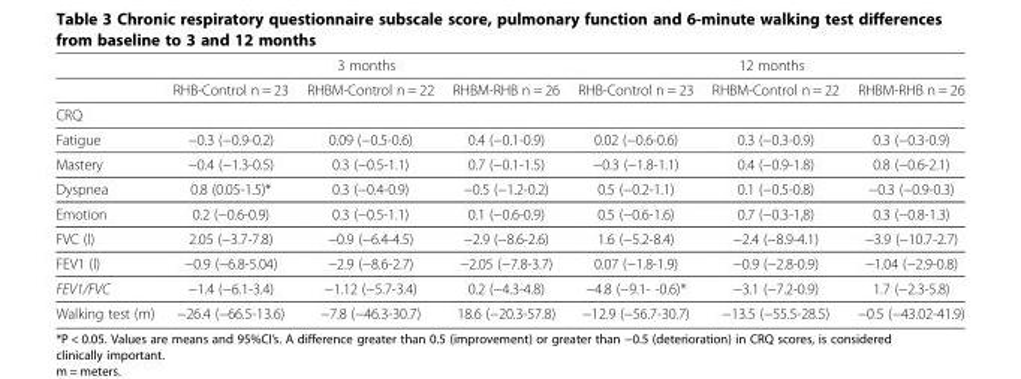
<table><thead><tr><td rowspan="2"></td><td colspan="3">3 months</td><td colspan="3">12 months</td></tr><tr><td>RHB-Control n = 23</td><td>RHBM-Control n = 22</td><td>RHBM-RHB n = 26</td><td>RHB-Control n = 23</td><td>RHBM-Control n = 22</td><td>RHBM-RHB n = 26</td></tr></thead><tbody><tr><td colspan="7">CRQ</td></tr><tr><td>Fatigue</td><td>−0.3 (−0.9-0.2)</td><td>0.09 (−0.5-0.6)</td><td>0.4 (−0.1-0.9)</td><td>0.02 (−0.6-0.6)</td><td>0.3 (−0.3-0.9)</td><td>0.3 (−0.3-0.9)</td></tr><tr><td>Mastery</td><td>−0.4 (−1.3-0.5)</td><td>0.3 (−0.5-1.1)</td><td>0.7 (−0.1-1.5)</td><td>−0.3 (−1.8-1.1)</td><td>0.4 (−0.9-1.8)</td><td>0.8 (−0.6-2.1)</td></tr><tr><td>Dyspnea</td><td>0.8 (0.05-1.5)*</td><td>0.3 (−0.4-0.9)</td><td>−0.5 (−1.2-0.2)</td><td>0.5 (−0.2-1.1)</td><td>0.1 (−0.5-0.8)</td><td>−0.3 (−0.9-0.3)</td></tr><tr><td>Emotion</td><td>0.2 (−0.6-0.9)</td><td>0.3 (−0.5-1.1)</td><td>0.1 (−0.6-0.9)</td><td>0.5 (−0.6-1.6)</td><td>0.7 (−0.3-1,8)</td><td>0.3 (−0.8-1.3)</td></tr><tr><td>FVC (l)</td><td>2.05 (−3.7-7.8)</td><td>−0.9 (−6.4-4.5)</td><td>−2.9 (−8.6-2.6)</td><td>1.6 (−5.2-8.4)</td><td>−2.4 (−8.9-4.1)</td><td>−3.9 (−10.7-2.7)</td></tr><tr><td>FEV1 (l)</td><td>−0.9 (−6.8-5.04)</td><td>−2.9 (−8.6-2.7)</td><td>−2.05 (−7.8-3.7)</td><td>0.07 (−1.8-1.9)</td><td>−0.9 (−2.8-0.9)</td><td>−1.04 (−2.9-0.8)</td></tr><tr><td>FEV1/FVC</td><td>−1.4 (−6.1-3.4)</td><td>−1.12 (−5.7-3.4)</td><td>0.2 (−4.3-4.8)</td><td>−4.8 (−9.1- -0.6)*</td><td>−3.1 (−7.2-0.9)</td><td>1.7 (−2.3-5.8)</td></tr><tr><td>Walking test (m)</td><td>−26.4 (−66.5-13.6)</td><td>−7.8 (−46.3-30.7)</td><td>18.6 (−20.3-57.8)</td><td>−12.9 (−56.7-30.7)</td><td>−13.5 (−55.5-28.5)</td><td>−0.5 (−43.02-41.9)</td></tr></tbody></table>